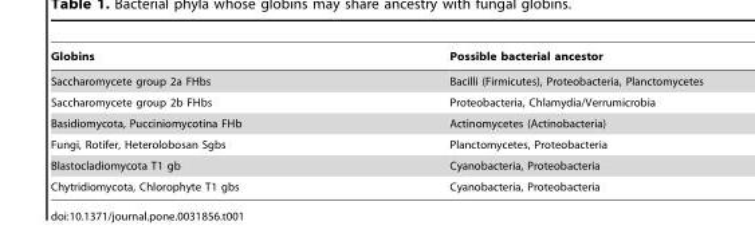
<table><thead><tr><td>Globins</td><td>Possible bacterial ancestor</td></tr></thead><tbody><tr><td>Saccharomycete group 2a FHbs</td><td>Bacilli (Firmicutes), Proteobacteria, Planctomycetes</td></tr><tr><td>Saccharomycete group 2b FHbs</td><td>Proteobacteria, Chlamydia/Verrumicrobia</td></tr><tr><td>Basidiomycota, Pucciniomycotina FHb</td><td>Actinomycetes (Actinobacteria)</td></tr><tr><td>Fungi, Rotifer, Heterolobosan Sgbs</td><td>Planctomycetes, Proteobacteria</td></tr><tr><td>Blastocladiomycota T1 gb</td><td>Cyanobacteria, Proteobacteria</td></tr><tr><td>Chytridiomycota, Chlorophyte T1 gbs</td><td>Cyanobacteria, Proteobacteria</td></tr></tbody></table>